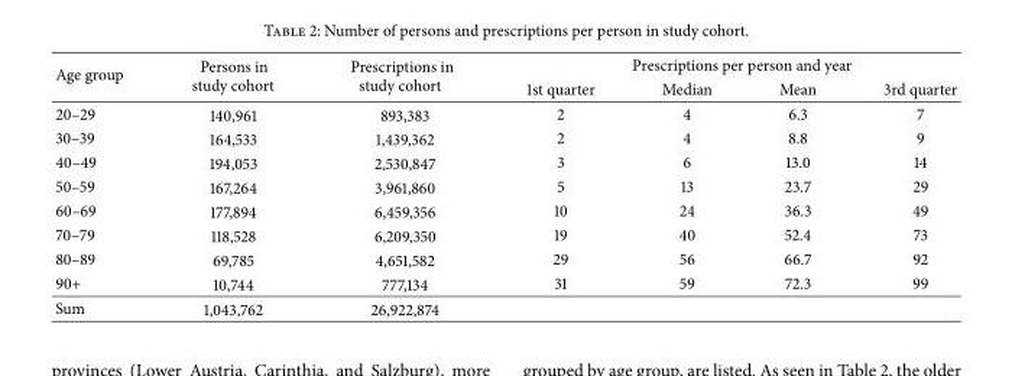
<table><thead><tr><td rowspan="2">Age group</td><td rowspan="2">Persons in study cohort</td><td rowspan="2">Prescriptions in study cohort</td><td colspan="4">Prescriptions per person and year</td></tr><tr><td>1st quarter</td><td>Median</td><td>Mean</td><td>3rd quarter</td></tr></thead><tbody><tr><td>20–29</td><td>140,961</td><td>893,383</td><td>2</td><td>4</td><td>6.3</td><td>7</td></tr><tr><td>30–39</td><td>164,533</td><td>1,439,362</td><td>2</td><td>4</td><td>8.8</td><td>9</td></tr><tr><td>40–49</td><td>194,053</td><td>2,530,847</td><td>3</td><td>6</td><td>13.0</td><td>14</td></tr><tr><td>50–59</td><td>167,264</td><td>3,961,860</td><td>5</td><td>13</td><td>23.7</td><td>29</td></tr><tr><td>60–69</td><td>177,894</td><td>6,459,356</td><td>10</td><td>24</td><td>36.3</td><td>49</td></tr><tr><td>70–79</td><td>118,528</td><td>6,209,350</td><td>19</td><td>40</td><td>52.4</td><td>73</td></tr><tr><td>80–89</td><td>69,785</td><td>4,651,582</td><td>29</td><td>56</td><td>66.7</td><td>92</td></tr><tr><td>90+</td><td>10,744</td><td>777,134</td><td>31</td><td>59</td><td>72.3</td><td>99</td></tr><tr><td>Sum</td><td>1,043,762</td><td>26,922,874</td><td></td><td></td><td></td><td></td></tr></tbody></table>